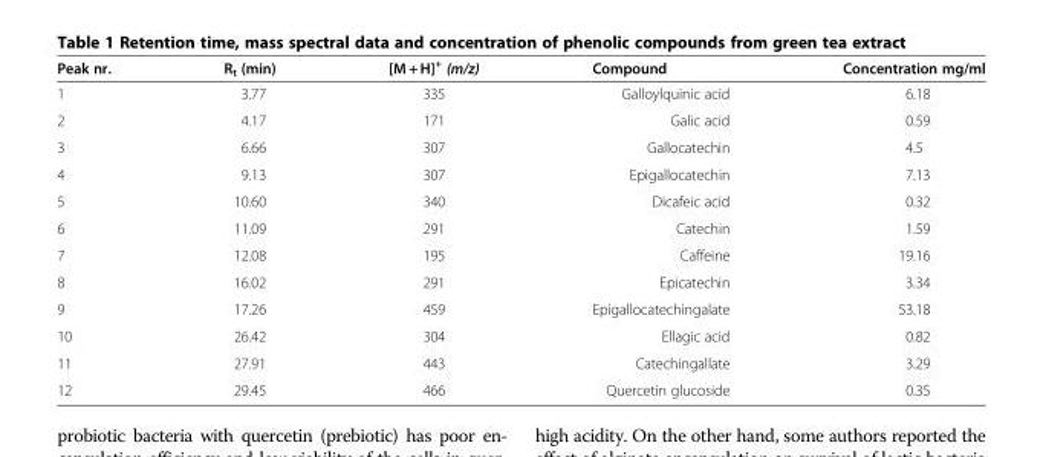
<table><thead><tr><td>Peak nr.</td><td>R<sub>t</sub> (min)</td><td>[M + H]<sup>+</sup> (m/z)</td><td>Compound</td><td>Concentration mg/ml</td></tr></thead><tbody><tr><td>1</td><td>3.77</td><td>335</td><td>Galloylquinic acid</td><td>6.18</td></tr><tr><td>2</td><td>4.17</td><td>171</td><td>Galic acid</td><td>0.59</td></tr><tr><td>3</td><td>6.66</td><td>307</td><td>Gallocatechin</td><td>4.5</td></tr><tr><td>4</td><td>9.13</td><td>307</td><td>Epigallocatechin</td><td>7.13</td></tr><tr><td>5</td><td>10.60</td><td>340</td><td>Dicafeic acid</td><td>0.32</td></tr><tr><td>6</td><td>11.09</td><td>291</td><td>Catechin</td><td>1.59</td></tr><tr><td>7</td><td>12.08</td><td>195</td><td>Caffeine</td><td>19.16</td></tr><tr><td>8</td><td>16.02</td><td>291</td><td>Epicatechin</td><td>3.34</td></tr><tr><td>9</td><td>17.26</td><td>459</td><td>Epigallocatechingalate</td><td>53.18</td></tr><tr><td>10</td><td>26.42</td><td>304</td><td>Ellagic acid</td><td>0.82</td></tr><tr><td>11</td><td>27.91</td><td>443</td><td>Catechingallate</td><td>3.29</td></tr><tr><td>12</td><td>29.45</td><td>466</td><td>Quercetin glucoside</td><td>0.35</td></tr></tbody></table>